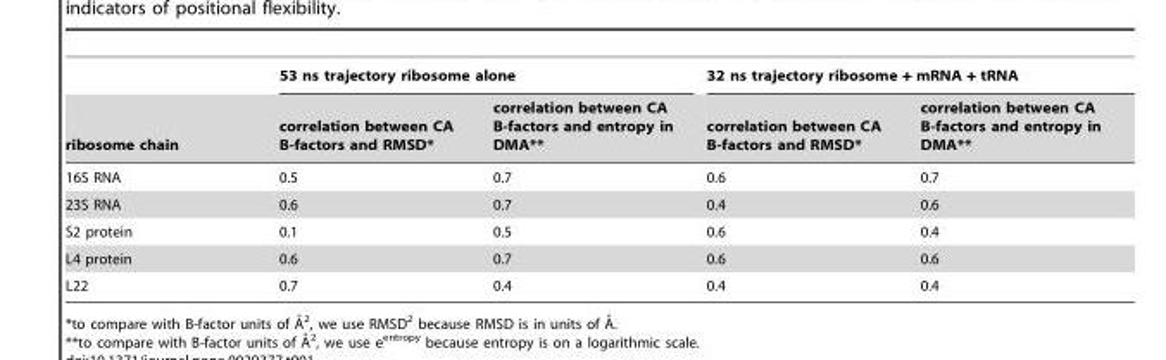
<table><thead><tr><td rowspan="2">ribosome chain</td><td colspan="2">53 ns trajectory ribosome alone</td><td colspan="2">32 ns trajectory ribosome + mRNA + tRNA</td></tr><tr><td>correlation between CA B-factors and RMSD*</td><td>correlation between CA B-factors and entropy in DMA**</td><td>correlation between CA B-factors and RMSD*</td><td>correlation between CA B-factors and entropy in DMA**</td></tr></thead><tbody><tr><td>16S RNA</td><td>0.5</td><td>0.7</td><td>0.6</td><td>0.7</td></tr><tr><td>23S RNA</td><td>0.6</td><td>0.7</td><td>0.4</td><td>0.6</td></tr><tr><td>S2 protein</td><td>0.1</td><td>0.5</td><td>0.6</td><td>0.4</td></tr><tr><td>L4 protein</td><td>0.6</td><td>0.7</td><td>0.6</td><td>0.6</td></tr><tr><td>L22</td><td>0.7</td><td>0.4</td><td>0.4</td><td>0.4</td></tr></tbody></table>